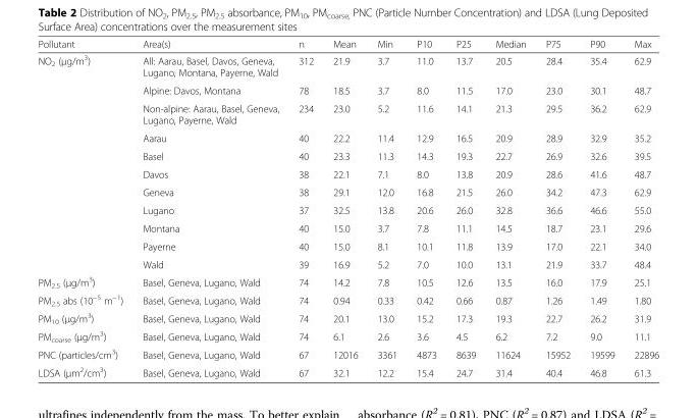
<table><thead><tr><td>Pollutant</td><td>Area(s)</td><td>n</td><td>Mean</td><td>Min</td><td>P10</td><td>P25</td><td>Median</td><td>P75</td><td>P90</td><td>Max</td></tr></thead><tbody><tr><td rowspan="11">NO<sub>2</sub> (μg/m<sup>3</sup>)</td><td>All: Aarau, Basel, Davos, Geneva, Lugano, Montana, Payerne, Wald</td><td>312</td><td>21.9</td><td>3.7</td><td>11.0</td><td>13.7</td><td>20.5</td><td>28.4</td><td>35.4</td><td>62.9</td></tr><tr><td>Alpine: Davos, Montana</td><td>78</td><td>18.5</td><td>3.7</td><td>8.0</td><td>11.5</td><td>17.0</td><td>23.0</td><td>30.1</td><td>48.7</td></tr><tr><td>Non-alpine: Aarau, Basel, Geneva, Lugano, Payerne, Wald</td><td>234</td><td>23.0</td><td>5.2</td><td>11.6</td><td>14.1</td><td>21.3</td><td>29.5</td><td>36.2</td><td>62.9</td></tr><tr><td>Aarau</td><td>40</td><td>22.2</td><td>11.4</td><td>12.9</td><td>16.5</td><td>20.9</td><td>28.9</td><td>32.9</td><td>35.2</td></tr><tr><td>Basel</td><td>40</td><td>23.3</td><td>11.3</td><td>14.3</td><td>19.3</td><td>22.7</td><td>26.9</td><td>32.6</td><td>39.5</td></tr><tr><td>Davos</td><td>38</td><td>22.1</td><td>7.1</td><td>8.0</td><td>13.8</td><td>20.9</td><td>28.6</td><td>41.6</td><td>48.7</td></tr><tr><td>Geneva</td><td>38</td><td>29.1</td><td>12.0</td><td>16.8</td><td>21.5</td><td>26.0</td><td>34.2</td><td>47.3</td><td>62.9</td></tr><tr><td>Lugano</td><td>37</td><td>32.5</td><td>13.8</td><td>20.6</td><td>26.0</td><td>32.8</td><td>36.6</td><td>46.6</td><td>55.0</td></tr><tr><td>Montana</td><td>40</td><td>15.0</td><td>3.7</td><td>7.8</td><td>11.1</td><td>14.5</td><td>18.7</td><td>23.1</td><td>29.6</td></tr><tr><td>Payerne</td><td>40</td><td>15.0</td><td>8.1</td><td>10.1</td><td>11.8</td><td>13.9</td><td>17.0</td><td>22.1</td><td>34.0</td></tr><tr><td>Wald</td><td>39</td><td>16.9</td><td>5.2</td><td>7.0</td><td>10.0</td><td>13.1</td><td>21.9</td><td>33.7</td><td>48.4</td></tr><tr><td>PM<sub>2.5</sub> (μg/m<sup>3</sup>)</td><td>Basel, Geneva, Lugano, Wald</td><td>74</td><td>14.2</td><td>7.8</td><td>10.5</td><td>12.6</td><td>13.5</td><td>16.0</td><td>17.9</td><td>25.1</td></tr><tr><td>PM<sub>2.5</sub> abs (10<sup>−5</sup> m<sup>−1</sup>)</td><td>Basel, Geneva, Lugano, Wald</td><td>74</td><td>0.94</td><td>0.33</td><td>0.42</td><td>0.66</td><td>0.87</td><td>1.26</td><td>1.49</td><td>1.80</td></tr><tr><td>PM<sub>10</sub> (μg/m<sup>3</sup>)</td><td>Basel, Geneva, Lugano, Wald</td><td>74</td><td>20.1</td><td>13.0</td><td>15.2</td><td>17.3</td><td>19.3</td><td>22.7</td><td>26.2</td><td>31.9</td></tr><tr><td>PM<sub>coarse</sub> (μg/m<sup>3</sup>)</td><td>Basel, Geneva, Lugano, Wald</td><td>74</td><td>6.1</td><td>2.6</td><td>3.6</td><td>4.5</td><td>6.2</td><td>7.2</td><td>9.0</td><td>11.1</td></tr><tr><td>PNC (particles/cm<sup>3</sup>)</td><td>Basel, Geneva, Lugano, Wald</td><td>67</td><td>12016</td><td>3361</td><td>4873</td><td>8639</td><td>11624</td><td>15952</td><td>19599</td><td>22896</td></tr><tr><td>LDSA (μm<sup>2</sup>/cm<sup>3</sup>)</td><td>Basel, Geneva, Lugano, Wald</td><td>67</td><td>32.1</td><td>12.2</td><td>15.4</td><td>24.7</td><td>31.4</td><td>40.4</td><td>46.8</td><td>61.3</td></tr></tbody></table>